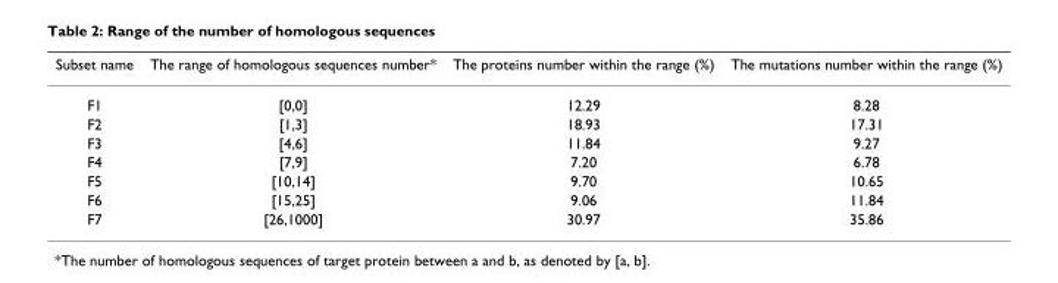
<table><thead><tr><td>Subset name</td><td>The range of homologous sequences number*</td><td>The proteins number within the range (%)</td><td>The mutations number within the range (%)</td></tr></thead><tbody><tr><td>F1</td><td>[0,0]</td><td>12.29</td><td>8.28</td></tr><tr><td>F2</td><td>[1,3]</td><td>18.93</td><td>17.31</td></tr><tr><td>F3</td><td>[4,6]</td><td>11.84</td><td>9.27</td></tr><tr><td>F4</td><td>[7,9]</td><td>7.20</td><td>6.78</td></tr><tr><td>F5</td><td>[10,14]</td><td>9.70</td><td>10.65</td></tr><tr><td>F6</td><td>[15,25]</td><td>9.06</td><td>11.84</td></tr><tr><td>F7</td><td>[26,1000]</td><td>30.97</td><td>35.86</td></tr></tbody></table>